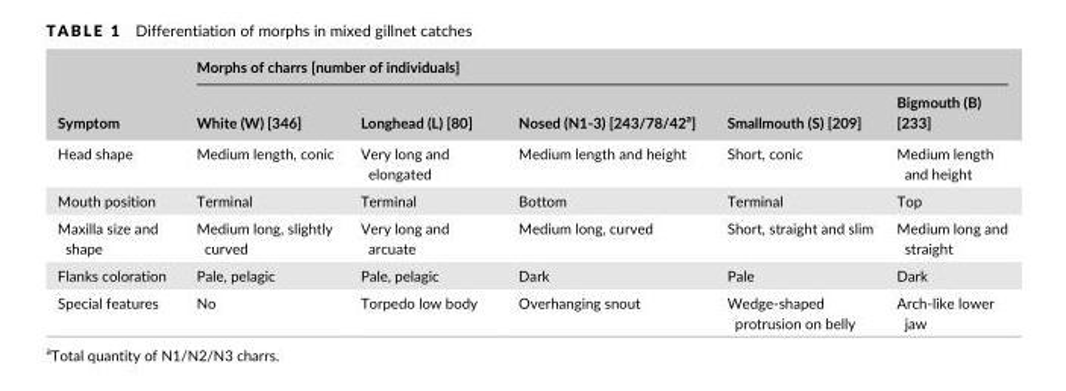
<table><thead><tr><td rowspan="2">Symptom</td><td colspan="5">Morphs of charrs [number of individuals]</td></tr><tr><td>White (W) [346]</td><td>Longhead (L) [80]</td><td>Nosed (N1- 3) [243/78/42<sup>a</sup>]</td><td>Smallmouth (S) [209]</td><td>Bigmouth (B) [233]</td></tr></thead><tbody><tr><td>Head shape</td><td>Medium length, conic</td><td>Very long and elongated</td><td>Medium length and height</td><td>Short, conic</td><td>Medium length and height</td></tr><tr><td>Mouth position</td><td>Terminal</td><td>Terminal</td><td>Bottom</td><td>Terminal</td><td>Top</td></tr><tr><td>Maxilla size and shape</td><td>Medium long, slightly curved</td><td>Very long and arcuate</td><td>Medium long, curved</td><td>Short, straight and slim</td><td>Medium long and straight</td></tr><tr><td>Flanks coloration</td><td>Pale, pelagic</td><td>Pale, pelagic</td><td>Dark</td><td>Pale</td><td>Dark</td></tr><tr><td>Special features</td><td>No</td><td>Torpedo low body</td><td>Overhanging snout</td><td>Wedge- shaped protrusion on belly</td><td>Arch- like lower jaw</td></tr></tbody></table>